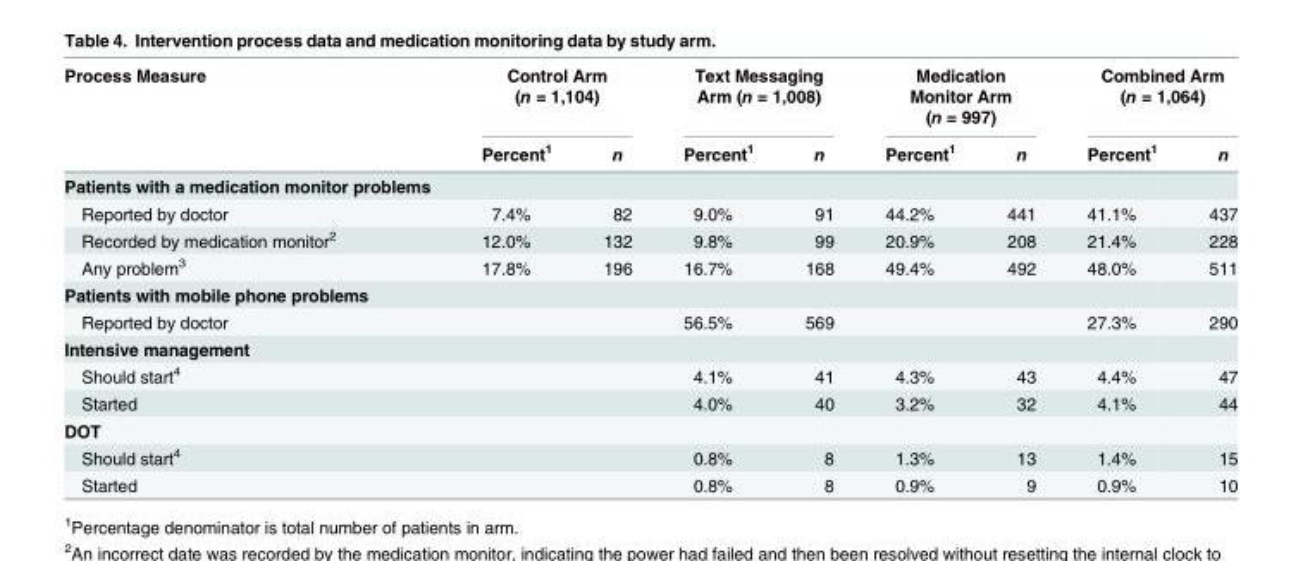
<table><thead><tr><td rowspan="2">Process Measure</td><td colspan="2">Control Arm (n = 1,104)</td><td colspan="2">Text Messaging Arm (n = 1,008)</td><td colspan="2">Medication Monitor Arm (n = 997)</td><td colspan="2">Combined Arm (n = 1,064)</td></tr><tr><td>Percent<sup>1</sup></td><td>n</td><td>Percent<sup>1</sup></td><td>n</td><td>Percent<sup>1</sup></td><td>n</td><td>Percent<sup>1</sup></td><td>n</td></tr></thead><tbody><tr><td colspan="9">Patients with a medication monitor problems</td></tr><tr><td>Reported by doctor</td><td>7.4%</td><td>82</td><td>9.0%</td><td>91</td><td>44.2%</td><td>441</td><td>41.1%</td><td>437</td></tr><tr><td>Recorded by medication monitor<sup>2</sup></td><td>12.0%</td><td>132</td><td>9.8%</td><td>99</td><td>20.9%</td><td>208</td><td>21.4%</td><td>228</td></tr><tr><td>Any problem<sup>3</sup></td><td>17.8%</td><td>196</td><td>16.7%</td><td>168</td><td>49.4%</td><td>492</td><td>48.0%</td><td>511</td></tr><tr><td colspan="9">Patients with mobile phone problems</td></tr><tr><td>Reported by doctor</td><td></td><td></td><td>56.5%</td><td>569</td><td></td><td></td><td>27.3%</td><td>290</td></tr><tr><td colspan="9">Intensive management</td></tr><tr><td>Should start<sup>4</sup></td><td></td><td></td><td>4.1%</td><td>41</td><td>4.3%</td><td>43</td><td>4.4%</td><td>47</td></tr><tr><td>Started</td><td></td><td></td><td>4.0%</td><td>40</td><td>3.2%</td><td>32</td><td>4.1%</td><td>44</td></tr><tr><td colspan="9">DOT</td></tr><tr><td>Should start<sup>4</sup></td><td></td><td></td><td>0.8%</td><td>8</td><td>1.3%</td><td>13</td><td>1.4%</td><td>15</td></tr><tr><td>Started</td><td></td><td></td><td>0.8%</td><td>8</td><td>0.9%</td><td>9</td><td>0.9%</td><td>10</td></tr></tbody></table>